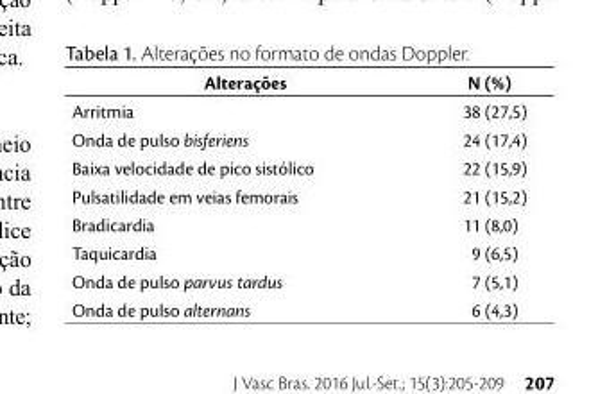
<table><thead><tr><td>Alterações</td><td>N (%)</td></tr></thead><tbody><tr><td>Arritmia</td><td>38 (27,5)</td></tr><tr><td>Onda de pulso bisferiens</td><td>24 (17,4)</td></tr><tr><td>Baixa velocidade de pico sistólico</td><td>22 (15,9)</td></tr><tr><td>Pulsatilidade em veias femorais</td><td>21 (15,2)</td></tr><tr><td>Bradicardia</td><td>11 (8,0)</td></tr><tr><td>Taquicardia</td><td>9 (6,5)</td></tr><tr><td>Onda de pulso parvus tardus</td><td>7 (5,1)</td></tr><tr><td>Onda de pulso alternans</td><td>6 (4,3)</td></tr></tbody></table>